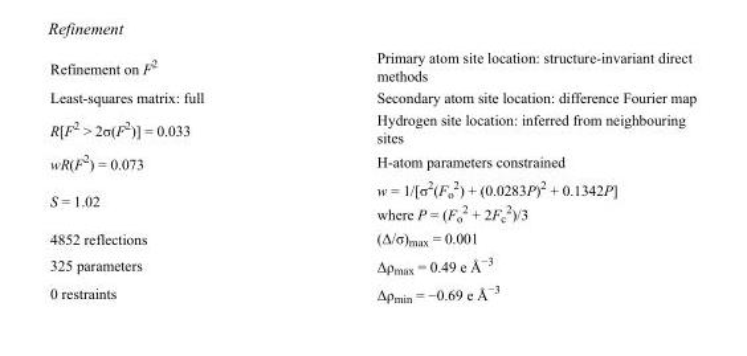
<table><tbody><tr><td>Refinement on F<sup>2</sup></td><td>Primary atom site location: structure-invariant direct methods</td></tr><tr><td>Least-squares matrix: full</td><td>Secondary atom site location: difference Fourier map</td></tr><tr><td>R[F<sup>2</sup> &gt; 2σ(F<sup>2</sup>)] = 0.033</td><td>Hydrogen site location: inferred from neighbouring sites</td></tr><tr><td>wR(F<sup>2</sup>) = 0.073</td><td>H-atom parameters constrained</td></tr><tr><td>S = 1.02</td><td>w = 1/[σ<sup>2</sup>(F<sub>o</sub> <sup>2</sup>) + (0.0283P)<sup>2</sup> + 0.1342P] where P = (F<sub>o</sub> <sup>2</sup> + 2F<sub>c</sub> <sup>2</sup>)/3</td></tr><tr><td>4852 reflections</td><td>(Δ/σ)<sub>max</sub> = 0.001</td></tr><tr><td>325 parameters</td><td>Δρ<sub>max</sub> = 0.49 e Å<sup>−3</sup></td></tr><tr><td>0 restraints</td><td>Δρ<sub>min</sub> = −0.69 e Å<sup>−3</sup></td></tr></tbody></table>